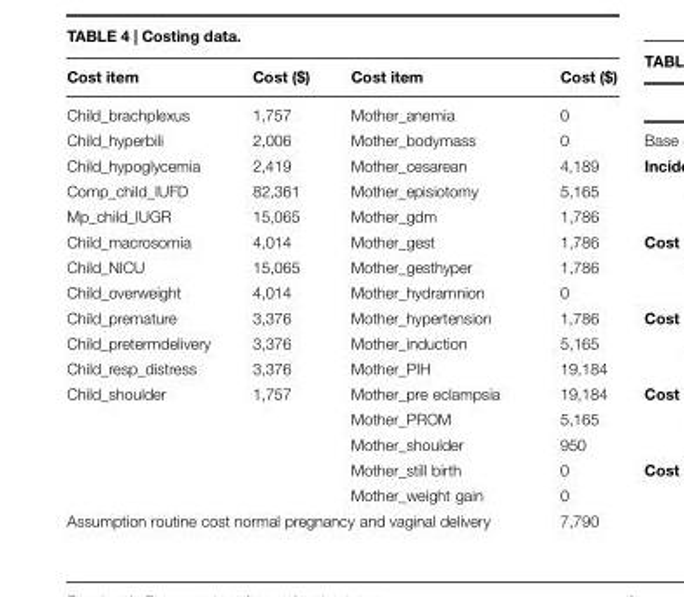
<table><thead><tr><td>Cost item</td><td>Cost ($)</td><td>Cost item</td><td>Cost ($)</td></tr></thead><tbody><tr><td>Child_brachplexus</td><td>1,757</td><td>Mother_anemia</td><td>0</td></tr><tr><td>Child_hyperbili</td><td>2,006</td><td>Mother_bodymass</td><td>0</td></tr><tr><td>Child_hypoglycemia</td><td>2,419</td><td>Mother_cesarean</td><td>4,189</td></tr><tr><td>Comp_child_IUFD</td><td>82,361</td><td>Mother_episiotomy</td><td>5,165</td></tr><tr><td>Mp_child_IUGR</td><td>15,065</td><td>Mother_gdm</td><td>1,786</td></tr><tr><td>Child_macrosomia</td><td>4,014</td><td>Mother_gest</td><td>1,786</td></tr><tr><td>Child_NICU</td><td>15,065</td><td>Mother_gesthyper</td><td>1,786</td></tr><tr><td>Child_overweight</td><td>4,014</td><td>Mother_hydramnion</td><td>0</td></tr><tr><td>Child_premature</td><td>3,376</td><td>Mother_hypertension</td><td>1,786</td></tr><tr><td>Child_pretermdelivery</td><td>3,376</td><td>Mother_induction</td><td>5,165</td></tr><tr><td>Child_resp_distress</td><td>3,376</td><td>Mother_PIH</td><td>19,184</td></tr><tr><td rowspan="5">Child_shoulder</td><td>1,757</td><td>Mother_pre eclampsia</td><td>19,184</td></tr><tr><td></td><td>Mother_PROM</td><td>5,165</td></tr><tr><td></td><td>Mother_shoulder</td><td>950</td></tr><tr><td></td><td>Mother_still birth</td><td>0</td></tr><tr><td></td><td>Mother_weight gain</td><td>0</td></tr><tr><td colspan="3">Assumption routine cost normal pregnancy and vaginal delivery</td><td>7,790</td></tr></tbody></table>